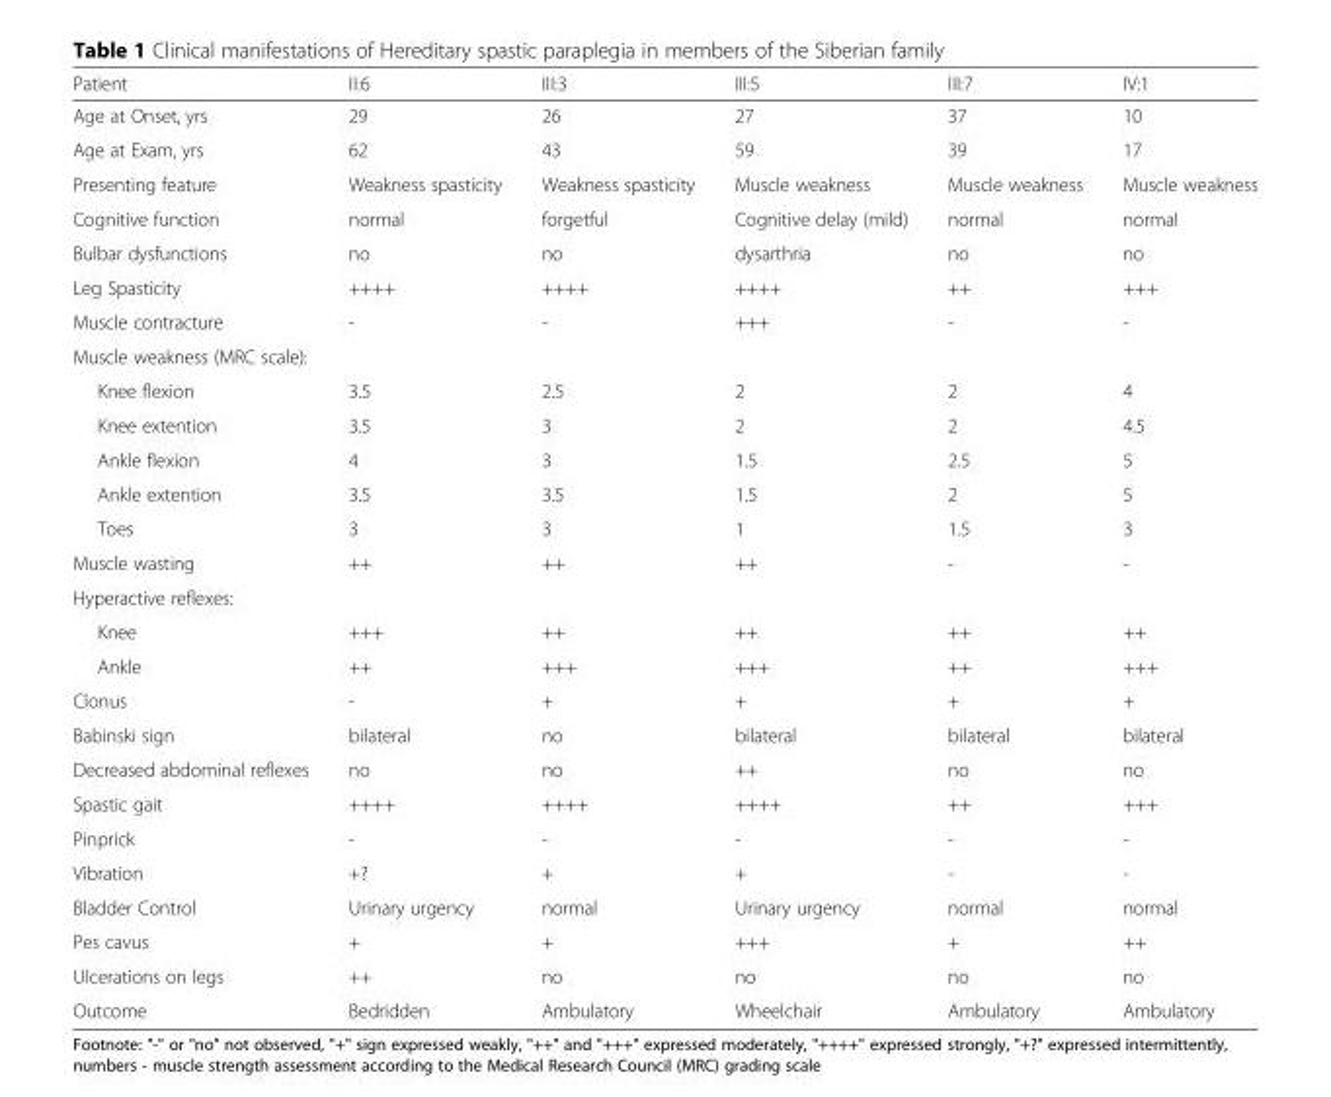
<table><thead><tr><td>Patient</td><td>II:6</td><td>III:3</td><td>III:5</td><td>III:7</td><td>IV:1</td></tr></thead><tbody><tr><td>Age at Onset, yrs</td><td>29</td><td>26</td><td>27</td><td>37</td><td>10</td></tr><tr><td>Age at Exam, yrs</td><td>62</td><td>43</td><td>59</td><td>39</td><td>17</td></tr><tr><td>Presenting feature</td><td>Weakness spasticity</td><td>Weakness spasticity</td><td>Muscle weakness</td><td>Muscle weakness</td><td>Muscle weakness</td></tr><tr><td>Cognitive function</td><td>normal</td><td>forgetful</td><td>Cognitive delay (mild)</td><td>normal</td><td>normal</td></tr><tr><td>Bulbar dysfunctions</td><td>no</td><td>no</td><td>dysarthria</td><td>no</td><td>no</td></tr><tr><td>Leg Spasticity</td><td>++++</td><td>++++</td><td>++++</td><td>++</td><td>+++</td></tr><tr><td>Muscle contracture</td><td>-</td><td>-</td><td>+++</td><td>-</td><td>-</td></tr><tr><td colspan="6">Muscle weakness (MRC scale):</td></tr><tr><td>Knee flexion</td><td>3.5</td><td>2.5</td><td>2</td><td>2</td><td>4</td></tr><tr><td>Knee extention</td><td>3.5</td><td>3</td><td>2</td><td>2</td><td>4.5</td></tr><tr><td>Ankle flexion</td><td>4</td><td>3</td><td>1.5</td><td>2.5</td><td>5</td></tr><tr><td>Ankle extention</td><td>3.5</td><td>3.5</td><td>1.5</td><td>2</td><td>5</td></tr><tr><td>Toes</td><td>3</td><td>3</td><td>1</td><td>1.5</td><td>3</td></tr><tr><td>Muscle wasting</td><td>++</td><td>++</td><td>++</td><td>-</td><td>-</td></tr><tr><td colspan="6">Hyperactive reflexes:</td></tr><tr><td>Knee</td><td>+++</td><td>++</td><td>++</td><td>++</td><td>++</td></tr><tr><td>Ankle</td><td>++</td><td>+++</td><td>+++</td><td>++</td><td>+++</td></tr><tr><td>Clonus</td><td>-</td><td>+</td><td>+</td><td>+</td><td>+</td></tr><tr><td>Babinski sign</td><td>bilateral</td><td>no</td><td>bilateral</td><td>bilateral</td><td>bilateral</td></tr><tr><td>Decreased abdominal reflexes</td><td>no</td><td>no</td><td>++</td><td>no</td><td>no</td></tr><tr><td>Spastic gait</td><td>++++</td><td>++++</td><td>++++</td><td>++</td><td>+++</td></tr><tr><td>Pinprick</td><td>-</td><td>-</td><td>-</td><td>-</td><td>-</td></tr><tr><td>Vibration</td><td>+?</td><td>+</td><td>+</td><td>-</td><td>-</td></tr><tr><td>Bladder Control</td><td>Urinary urgency</td><td>normal</td><td>Urinary urgency</td><td>normal</td><td>normal</td></tr><tr><td>Pes cavus</td><td>+</td><td>+</td><td>+++</td><td>+</td><td>++</td></tr><tr><td>Ulcerations on legs</td><td>++</td><td>no</td><td>no</td><td>no</td><td>no</td></tr><tr><td>Outcome</td><td>Bedridden</td><td>Ambulatory</td><td>Wheelchair</td><td>Ambulatory</td><td>Ambulatory</td></tr></tbody></table>